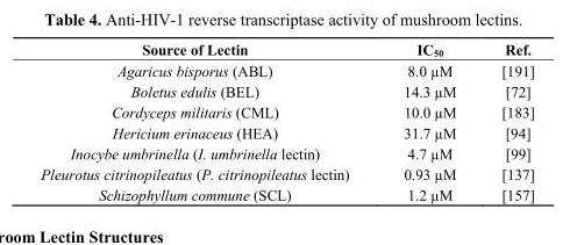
<table><thead><tr><td>Source of Lectin</td><td>IC<sub>50</sub></td><td>Ref.</td></tr></thead><tbody><tr><td>Agaricus bisporus (ABL)</td><td>8.0 µM</td><td>[191]</td></tr><tr><td>Boletus edulis (BEL)</td><td>14.3 µM</td><td>[72]</td></tr><tr><td>Cordyceps militaris (CML)</td><td>10.0 µM</td><td>[183]</td></tr><tr><td>Hericium erinaceus (HEA)</td><td>31.7 µM</td><td>[94]</td></tr><tr><td>Inocybe umbrinella (I. umbrinella lectin)</td><td>4.7 µM</td><td>[99]</td></tr><tr><td>Pleurotus citrinopileatus (P. citrinopileatus lectin)</td><td>0.93 µM</td><td>[137]</td></tr><tr><td>Schizophyllum commune (SCL)</td><td>1.2 µM</td><td>[157]</td></tr></tbody></table>